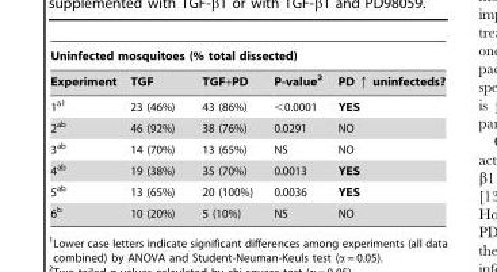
<table><thead><tr><td colspan="5">Uninfected mosquitoes (% total dissected)</td></tr><tr><td>Experiment</td><td>TGF</td><td>TGF+PD</td><td>P-value<sup>2</sup></td><td>PD ↑ uninfecteds?</td></tr></thead><tbody><tr><td>1<sup>a</sup>1</td><td>23 (46%)</td><td>43 (86%)</td><td>&lt;0.0001</td><td>YES</td></tr><tr><td>2<sup>ab</sup></td><td>46 (92%)</td><td>38 (76%)</td><td>0.0291</td><td>NO</td></tr><tr><td>3<sup>ab</sup></td><td>14 (70%)</td><td>13 (65%)</td><td>NS</td><td>NO</td></tr><tr><td>4<sup>ab</sup></td><td>19 (38%)</td><td>35 (70%)</td><td>0.0013</td><td>YES</td></tr><tr><td>5<sup>ab</sup></td><td>13 (65%)</td><td>20 (100%)</td><td>0.0036</td><td>YES</td></tr><tr><td>6<sup>b</sup></td><td>10 (20%)</td><td>5 (10%)</td><td>NS</td><td>NO</td></tr></tbody></table>